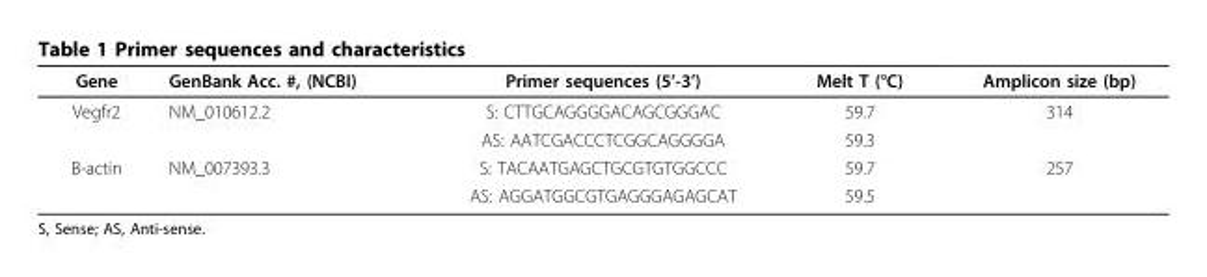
<table><thead><tr><td>Gene</td><td>GenBank Acc. #, (NCBI)</td><td>Primer sequences (5’-3’)</td><td>Melt T (°C)</td><td>Amplicon size (bp)</td></tr></thead><tbody><tr><td rowspan="2">Vegfr2</td><td>NM_010612.2</td><td>S: CTTGCAGGGGACAGCGGGAC</td><td>59.7</td><td>314</td></tr><tr><td></td><td>AS: AATCGACCCTCGGCAGGGGA</td><td>59.3</td><td></td></tr><tr><td rowspan="2">Β-actin</td><td>NM_007393.3</td><td>S: TACAATGAGCTGCGTGTGGCCC</td><td>59.7</td><td>257</td></tr><tr><td></td><td>AS: AGGATGGCGTGAGGGAGAGCAT</td><td>59.5</td><td></td></tr></tbody></table>